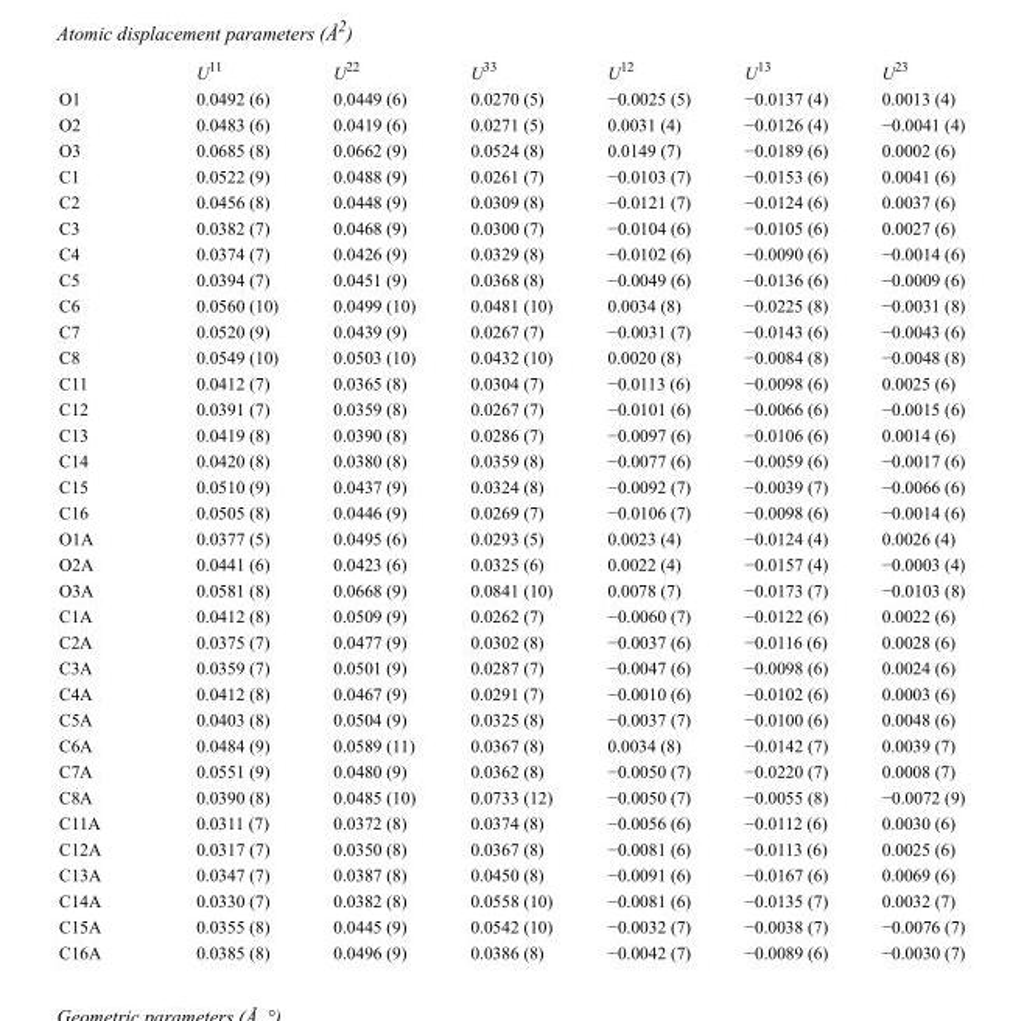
<table><thead><tr><td></td><td>U<sup>11</sup></td><td>U<sup>22</sup></td><td>U<sup>33</sup></td><td>U<sup>12</sup></td><td>U<sup>13</sup></td><td>U<sup>23</sup></td></tr></thead><tbody><tr><td>O1</td><td>0.0492 (6)</td><td>0.0449 (6)</td><td>0.0270 (5)</td><td>−0.0025 (5)</td><td>−0.0137 (4)</td><td>0.0013 (4)</td></tr><tr><td>O2</td><td>0.0483 (6)</td><td>0.0419 (6)</td><td>0.0271 (5)</td><td>0.0031 (4)</td><td>−0.0126 (4)</td><td>−0.0041 (4)</td></tr><tr><td>O3</td><td>0.0685 (8)</td><td>0.0662 (9)</td><td>0.0524 (8)</td><td>0.0149 (7)</td><td>−0.0189 (6)</td><td>0.0002 (6)</td></tr><tr><td>C1</td><td>0.0522 (9)</td><td>0.0488 (9)</td><td>0.0261 (7)</td><td>−0.0103 (7)</td><td>−0.0153 (6)</td><td>0.0041 (6)</td></tr><tr><td>C2</td><td>0.0456 (8)</td><td>0.0448 (9)</td><td>0.0309 (8)</td><td>−0.0121 (7)</td><td>−0.0124 (6)</td><td>0.0037 (6)</td></tr><tr><td>C3</td><td>0.0382 (7)</td><td>0.0468 (9)</td><td>0.0300 (7)</td><td>−0.0104 (6)</td><td>−0.0105 (6)</td><td>0.0027 (6)</td></tr><tr><td>C4</td><td>0.0374 (7)</td><td>0.0426 (9)</td><td>0.0329 (8)</td><td>−0.0102 (6)</td><td>−0.0090 (6)</td><td>−0.0014 (6)</td></tr><tr><td>C5</td><td>0.0394 (7)</td><td>0.0451 (9)</td><td>0.0368 (8)</td><td>−0.0049 (6)</td><td>−0.0136 (6)</td><td>−0.0009 (6)</td></tr><tr><td>C6</td><td>0.0560 (10)</td><td>0.0499 (10)</td><td>0.0481 (10)</td><td>0.0034 (8)</td><td>−0.0225 (8)</td><td>−0.0031 (8)</td></tr><tr><td>C7</td><td>0.0520 (9)</td><td>0.0439 (9)</td><td>0.0267 (7)</td><td>−0.0031 (7)</td><td>−0.0143 (6)</td><td>−0.0043 (6)</td></tr><tr><td>C8</td><td>0.0549 (10)</td><td>0.0503 (10)</td><td>0.0432 (10)</td><td>0.0020 (8)</td><td>−0.0084 (8)</td><td>−0.0048 (8)</td></tr><tr><td>C11</td><td>0.0412 (7)</td><td>0.0365 (8)</td><td>0.0304 (7)</td><td>−0.0113 (6)</td><td>−0.0098 (6)</td><td>0.0025 (6)</td></tr><tr><td>C12</td><td>0.0391 (7)</td><td>0.0359 (8)</td><td>0.0267 (7)</td><td>−0.0101 (6)</td><td>−0.0066 (6)</td><td>−0.0015 (6)</td></tr><tr><td>C13</td><td>0.0419 (8)</td><td>0.0390 (8)</td><td>0.0286 (7)</td><td>−0.0097 (6)</td><td>−0.0106 (6)</td><td>0.0014 (6)</td></tr><tr><td>C14</td><td>0.0420 (8)</td><td>0.0380 (8)</td><td>0.0359 (8)</td><td>−0.0077 (6)</td><td>−0.0059 (6)</td><td>−0.0017 (6)</td></tr><tr><td>C15</td><td>0.0510 (9)</td><td>0.0437 (9)</td><td>0.0324 (8)</td><td>−0.0092 (7)</td><td>−0.0039 (7)</td><td>−0.0066 (6)</td></tr><tr><td>C16</td><td>0.0505 (8)</td><td>0.0446 (9)</td><td>0.0269 (7)</td><td>−0.0106 (7)</td><td>−0.0098 (6)</td><td>−0.0014 (6)</td></tr><tr><td>O1A</td><td>0.0377 (5)</td><td>0.0495 (6)</td><td>0.0293 (5)</td><td>0.0023 (4)</td><td>−0.0124 (4)</td><td>0.0026 (4)</td></tr><tr><td>O2A</td><td>0.0441 (6)</td><td>0.0423 (6)</td><td>0.0325 (6)</td><td>0.0022 (4)</td><td>−0.0157 (4)</td><td>−0.0003 (4)</td></tr><tr><td>O3A</td><td>0.0581 (8)</td><td>0.0668 (9)</td><td>0.0841 (10)</td><td>0.0078 (7)</td><td>−0.0173 (7)</td><td>−0.0103 (8)</td></tr><tr><td>C1A</td><td>0.0412 (8)</td><td>0.0509 (9)</td><td>0.0262 (7)</td><td>−0.0060 (7)</td><td>−0.0122 (6)</td><td>0.0022 (6)</td></tr><tr><td>C2A</td><td>0.0375 (7)</td><td>0.0477 (9)</td><td>0.0302 (8)</td><td>−0.0037 (6)</td><td>−0.0116 (6)</td><td>0.0028 (6)</td></tr><tr><td>C3A</td><td>0.0359 (7)</td><td>0.0501 (9)</td><td>0.0287 (7)</td><td>−0.0047 (6)</td><td>−0.0098 (6)</td><td>0.0024 (6)</td></tr><tr><td>C4A</td><td>0.0412 (8)</td><td>0.0467 (9)</td><td>0.0291 (7)</td><td>−0.0010 (6)</td><td>−0.0102 (6)</td><td>0.0003 (6)</td></tr><tr><td>C5A</td><td>0.0403 (8)</td><td>0.0504 (9)</td><td>0.0325 (8)</td><td>−0.0037 (7)</td><td>−0.0100 (6)</td><td>0.0048 (6)</td></tr><tr><td>C6A</td><td>0.0484 (9)</td><td>0.0589 (11)</td><td>0.0367 (8)</td><td>0.0034 (8)</td><td>−0.0142 (7)</td><td>0.0039 (7)</td></tr><tr><td>C7A</td><td>0.0551 (9)</td><td>0.0480 (9)</td><td>0.0362 (8)</td><td>−0.0050 (7)</td><td>−0.0220 (7)</td><td>0.0008 (7)</td></tr><tr><td>C8A</td><td>0.0390 (8)</td><td>0.0485 (10)</td><td>0.0733 (12)</td><td>−0.0050 (7)</td><td>−0.0055 (8)</td><td>−0.0072 (9)</td></tr><tr><td>C11A</td><td>0.0311 (7)</td><td>0.0372 (8)</td><td>0.0374 (8)</td><td>−0.0056 (6)</td><td>−0.0112 (6)</td><td>0.0030 (6)</td></tr><tr><td>C12A</td><td>0.0317 (7)</td><td>0.0350 (8)</td><td>0.0367 (8)</td><td>−0.0081 (6)</td><td>−0.0113 (6)</td><td>0.0025 (6)</td></tr><tr><td>C13A</td><td>0.0347 (7)</td><td>0.0387 (8)</td><td>0.0450 (8)</td><td>−0.0091 (6)</td><td>−0.0167 (6)</td><td>0.0069 (6)</td></tr><tr><td>C14A</td><td>0.0330 (7)</td><td>0.0382 (8)</td><td>0.0558 (10)</td><td>−0.0081 (6)</td><td>−0.0135 (7)</td><td>0.0032 (7)</td></tr><tr><td>C15A</td><td>0.0355 (8)</td><td>0.0445 (9)</td><td>0.0542 (10)</td><td>−0.0032 (7)</td><td>−0.0038 (7)</td><td>−0.0076 (7)</td></tr><tr><td>C16A</td><td>0.0385 (8)</td><td>0.0496 (9)</td><td>0.0386 (8)</td><td>−0.0042 (7)</td><td>−0.0089 (6)</td><td>−0.0030 (7)</td></tr></tbody></table>